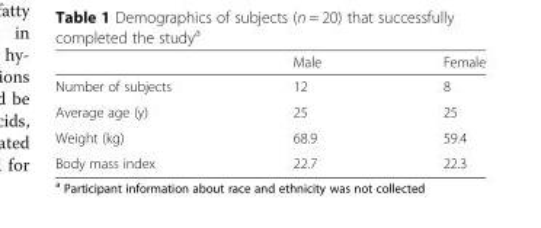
<table><thead><tr><td></td><td>Male</td><td>Female</td></tr></thead><tbody><tr><td>Number of subjects</td><td>12</td><td>8</td></tr><tr><td>Average age (y)</td><td>25</td><td>25</td></tr><tr><td>Weight (kg)</td><td>68.9</td><td>59.4</td></tr><tr><td>Body mass index</td><td>22.7</td><td>22.3</td></tr></tbody></table>